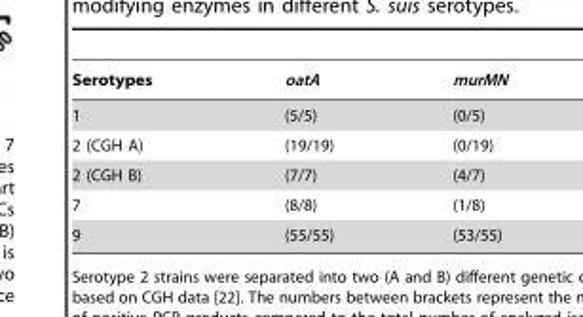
<table><thead><tr><td>Serotypes</td><td>oatA</td><td>murMN</td></tr></thead><tbody><tr><td>1</td><td>(5/5)</td><td>(0/5)</td></tr><tr><td>2 (CGH A)</td><td>(19/19)</td><td>(0/19)</td></tr><tr><td>2 (CGH B)</td><td>(7/7)</td><td>(4/7)</td></tr><tr><td>7</td><td>(8/8)</td><td>(1/8)</td></tr><tr><td>9</td><td>(55/55)</td><td>(53/55)</td></tr></tbody></table>